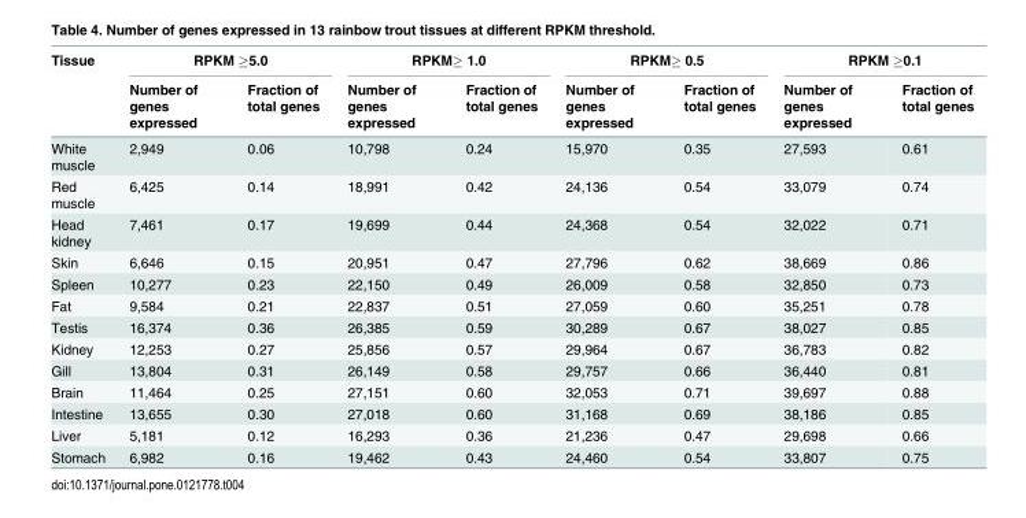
<table><thead><tr><td rowspan="2">Tissue</td><td colspan="2">RPKM ≥5.0</td><td colspan="2">RPKM≥ 1.0</td><td colspan="2">RPKM≥ 0.5</td><td colspan="2">RPKM ≥0.1</td></tr><tr><td>Number of genes expressed</td><td>Fraction of total genes</td><td>Number of genes expressed</td><td>Fraction of total genes</td><td>Number of genes expressed</td><td>Fraction of total genes</td><td>Number of genes expressed</td><td>Fraction of total genes</td></tr></thead><tbody><tr><td>White muscle</td><td>2,949</td><td>0.06</td><td>10,798</td><td>0.24</td><td>15,970</td><td>0.35</td><td>27,593</td><td>0.61</td></tr><tr><td>Red muscle</td><td>6,425</td><td>0.14</td><td>18,991</td><td>0.42</td><td>24,136</td><td>0.54</td><td>33,079</td><td>0.74</td></tr><tr><td>Head kidney</td><td>7,461</td><td>0.17</td><td>19,699</td><td>0.44</td><td>24,368</td><td>0.54</td><td>32,022</td><td>0.71</td></tr><tr><td>Skin</td><td>6,646</td><td>0.15</td><td>20,951</td><td>0.47</td><td>27,796</td><td>0.62</td><td>38,669</td><td>0.86</td></tr><tr><td>Spleen</td><td>10,277</td><td>0.23</td><td>22,150</td><td>0.49</td><td>26,009</td><td>0.58</td><td>32,850</td><td>0.73</td></tr><tr><td>Fat</td><td>9,584</td><td>0.21</td><td>22,837</td><td>0.51</td><td>27,059</td><td>0.60</td><td>35,251</td><td>0.78</td></tr><tr><td>Testis</td><td>16,374</td><td>0.36</td><td>26,385</td><td>0.59</td><td>30,289</td><td>0.67</td><td>38,027</td><td>0.85</td></tr><tr><td>Kidney</td><td>12,253</td><td>0.27</td><td>25,856</td><td>0.57</td><td>29,964</td><td>0.67</td><td>36,783</td><td>0.82</td></tr><tr><td>Gill</td><td>13,804</td><td>0.31</td><td>26,149</td><td>0.58</td><td>29,757</td><td>0.66</td><td>36,440</td><td>0.81</td></tr><tr><td>Brain</td><td>11,464</td><td>0.25</td><td>27,151</td><td>0.60</td><td>32,053</td><td>0.71</td><td>39,697</td><td>0.88</td></tr><tr><td>Intestine</td><td>13,655</td><td>0.30</td><td>27,018</td><td>0.60</td><td>31,168</td><td>0.69</td><td>38,186</td><td>0.85</td></tr><tr><td>Liver</td><td>5,181</td><td>0.12</td><td>16,293</td><td>0.36</td><td>21,236</td><td>0.47</td><td>29,698</td><td>0.66</td></tr><tr><td>Stomach</td><td>6,982</td><td>0.16</td><td>19,462</td><td>0.43</td><td>24,460</td><td>0.54</td><td>33,807</td><td>0.75</td></tr></tbody></table>